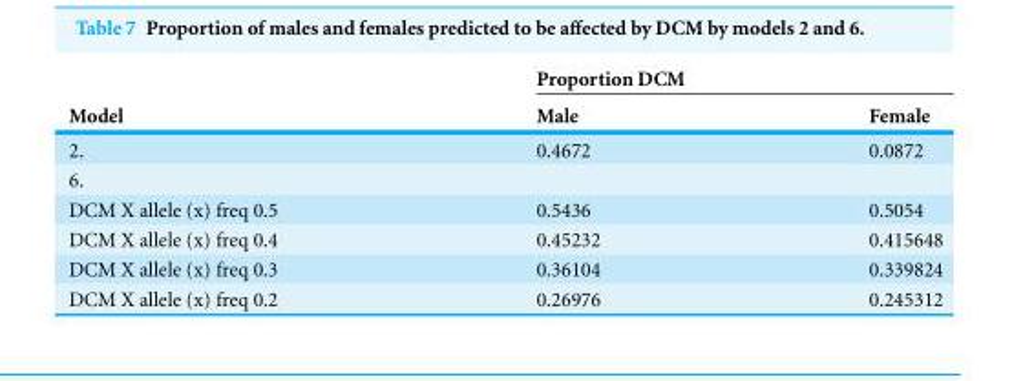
<table><thead><tr><td rowspan="2">Model</td><td colspan="2">Proportion DCM</td></tr><tr><td>Male</td><td>Female</td></tr></thead><tbody><tr><td>2.</td><td>0.4672</td><td>0.0872</td></tr><tr><td colspan="3">6.</td></tr><tr><td>DCM X allele (x) freq 0.5</td><td>0.5436</td><td>0.5054</td></tr><tr><td>DCM X allele (x) freq 0.4</td><td>0.45232</td><td>0.415648</td></tr><tr><td>DCM X allele (x) freq 0.3</td><td>0.36104</td><td>0.339824</td></tr><tr><td>DCM X allele (x) freq 0.2</td><td>0.26976</td><td>0.245312</td></tr></tbody></table>